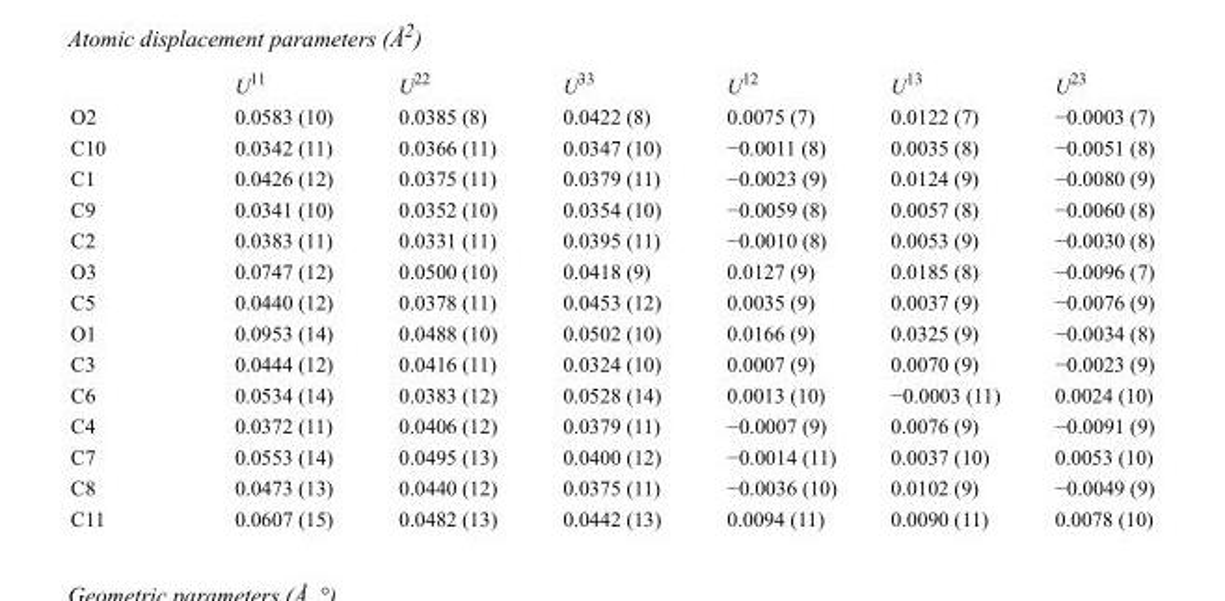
<table><thead><tr><td></td><td>U<sup>11</sup></td><td>U<sup>22</sup></td><td>U<sup>33</sup></td><td>U<sup>12</sup></td><td>U<sup>13</sup></td><td>U<sup>23</sup></td></tr></thead><tbody><tr><td>O2</td><td>0.0583 (10)</td><td>0.0385 (8)</td><td>0.0422 (8)</td><td>0.0075 (7)</td><td>0.0122 (7)</td><td>−0.0003 (7)</td></tr><tr><td>C10</td><td>0.0342 (11)</td><td>0.0366 (11)</td><td>0.0347 (10)</td><td>−0.0011 (8)</td><td>0.0035 (8)</td><td>−0.0051 (8)</td></tr><tr><td>C1</td><td>0.0426 (12)</td><td>0.0375 (11)</td><td>0.0379 (11)</td><td>−0.0023 (9)</td><td>0.0124 (9)</td><td>−0.0080 (9)</td></tr><tr><td>C9</td><td>0.0341 (10)</td><td>0.0352 (10)</td><td>0.0354 (10)</td><td>−0.0059 (8)</td><td>0.0057 (8)</td><td>−0.0060 (8)</td></tr><tr><td>C2</td><td>0.0383 (11)</td><td>0.0331 (11)</td><td>0.0395 (11)</td><td>−0.0010 (8)</td><td>0.0053 (9)</td><td>−0.0030 (8)</td></tr><tr><td>O3</td><td>0.0747 (12)</td><td>0.0500 (10)</td><td>0.0418 (9)</td><td>0.0127 (9)</td><td>0.0185 (8)</td><td>−0.0096 (7)</td></tr><tr><td>C5</td><td>0.0440 (12)</td><td>0.0378 (11)</td><td>0.0453 (12)</td><td>0.0035 (9)</td><td>0.0037 (9)</td><td>−0.0076 (9)</td></tr><tr><td>O1</td><td>0.0953 (14)</td><td>0.0488 (10)</td><td>0.0502 (10)</td><td>0.0166 (9)</td><td>0.0325 (9)</td><td>−0.0034 (8)</td></tr><tr><td>C3</td><td>0.0444 (12)</td><td>0.0416 (11)</td><td>0.0324 (10)</td><td>0.0007 (9)</td><td>0.0070 (9)</td><td>−0.0023 (9)</td></tr><tr><td>C6</td><td>0.0534 (14)</td><td>0.0383 (12)</td><td>0.0528 (14)</td><td>0.0013 (10)</td><td>−0.0003 (11)</td><td>0.0024 (10)</td></tr><tr><td>C4</td><td>0.0372 (11)</td><td>0.0406 (12)</td><td>0.0379 (11)</td><td>−0.0007 (9)</td><td>0.0076 (9)</td><td>−0.0091 (9)</td></tr><tr><td>C7</td><td>0.0553 (14)</td><td>0.0495 (13)</td><td>0.0400 (12)</td><td>−0.0014 (11)</td><td>0.0037 (10)</td><td>0.0053 (10)</td></tr><tr><td>C8</td><td>0.0473 (13)</td><td>0.0440 (12)</td><td>0.0375 (11)</td><td>−0.0036 (10)</td><td>0.0102 (9)</td><td>−0.0049 (9)</td></tr><tr><td>C11</td><td>0.0607 (15)</td><td>0.0482 (13)</td><td>0.0442 (13)</td><td>0.0094 (11)</td><td>0.0090 (11)</td><td>0.0078 (10)</td></tr></tbody></table>